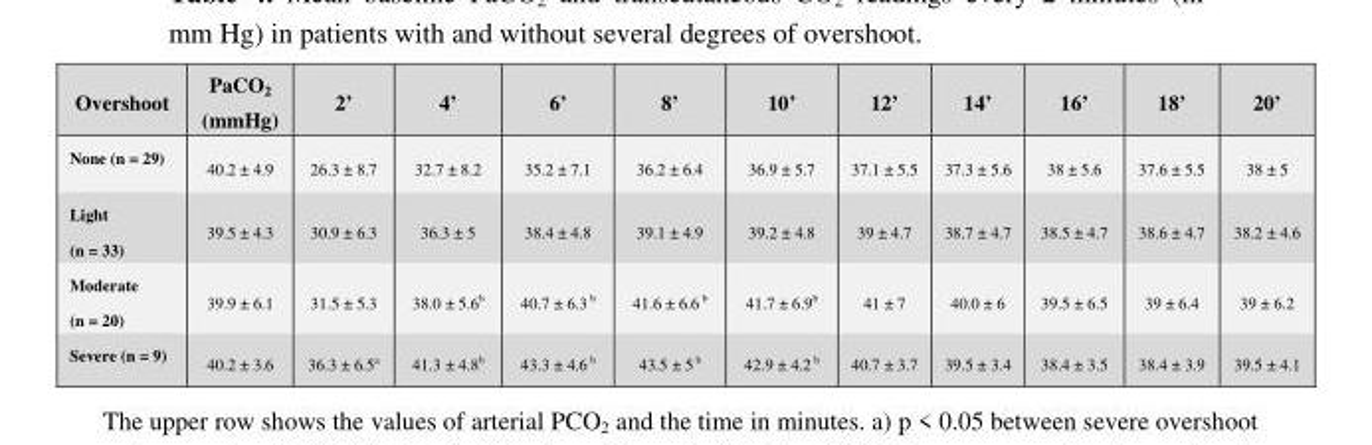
<table><thead><tr><td>Overshoot</td><td>PaCO<sub>2</sub> (mmHg)</td><td>2’</td><td>4’</td><td>6’</td><td>8’</td><td>10’</td><td>12’</td><td>14’</td><td>16’</td><td>18’</td><td>20’</td></tr></thead><tbody><tr><td>None (n = 29)</td><td>40.2 ± 4.9</td><td>26.3 ± 8.7</td><td>32.7 ± 8.2</td><td>35.2 ± 7.1</td><td>36.2 ± 6.4</td><td>36.9 ± 5.7</td><td>37.1 ± 5.5</td><td>37.3 ± 5.6</td><td>38 ± 5.6</td><td>37.6 ± 5.5</td><td>38 ± 5</td></tr><tr><td>Light (n = 33)</td><td>39.5 ± 4.3</td><td>30.9 ± 6.3</td><td>36.3 ± 5</td><td>38.4 ± 4.8</td><td>39.1 ± 4.9</td><td>39.2 ± 4.8</td><td>39 ± 4.7</td><td>38.7 ± 4.7</td><td>38.5 ± 4.7</td><td>38.6 ± 4.7</td><td>38.2 ± 4.6</td></tr><tr><td>Moderate (n = 20)</td><td>39.9 ± 6.1</td><td>31.5 ± 5.3</td><td>38.0 ± 5.6<sup>b</sup></td><td>40.7 ± 6.3 <sup>b</sup></td><td>41.6 ± 6.6 <sup>b</sup></td><td>41.7 ± 6.9<sup>b</sup></td><td>41 ± 7</td><td>40.0 ± 6</td><td>39.5 ± 6.5</td><td>39 ± 6.4</td><td>39 ± 6.2</td></tr><tr><td>Severe (n = 9)</td><td>40.2 ± 3.6</td><td>36.3 ± 6.5<sup>a</sup></td><td>41.3 ± 4.8<sup>b</sup></td><td>43.3 ± 4.6 <sup>b</sup></td><td>43.5 ± 5 <sup>b</sup></td><td>42.9 ± 4.2 <sup>b</sup></td><td>40.7 ± 3.7</td><td>39.5 ± 3.4</td><td>38.4 ± 3.5</td><td>38.4 ± 3.9</td><td>39.5 ± 4.1</td></tr></tbody></table>